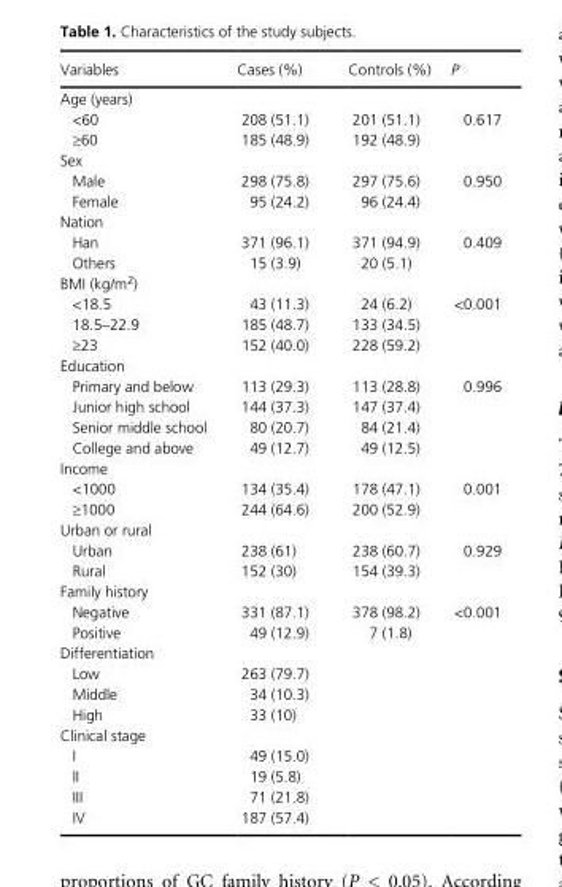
<table><thead><tr><td>Variables</td><td>Cases (%)</td><td>Controls (%)</td><td>P</td></tr></thead><tbody><tr><td colspan="4">Age (years)</td></tr><tr><td>&lt;60</td><td>208 (51.1)</td><td>201 (51.1)</td><td rowspan="2">0.617</td></tr><tr><td>≥60</td><td>185 (48.9)</td><td>192 (48.9)</td></tr><tr><td colspan="4">Sex</td></tr><tr><td>Male</td><td>298 (75.8)</td><td>297 (75.6)</td><td rowspan="2">0.950</td></tr><tr><td>Female</td><td>95 (24.2)</td><td>96 (24.4)</td></tr><tr><td colspan="4">Nation</td></tr><tr><td>Han</td><td>371 (96.1)</td><td>371 (94.9)</td><td rowspan="2">0.409</td></tr><tr><td>Others</td><td>15 (3.9)</td><td>20 (5.1)</td></tr><tr><td colspan="4">BMI (kg/m<sup>2</sup>)</td></tr><tr><td>&lt;18.5</td><td>43 (11.3)</td><td>24 (6.2)</td><td rowspan="3">&lt;0.001</td></tr><tr><td>18.5–22.9</td><td>185 (48.7)</td><td>133 (34.5)</td></tr><tr><td>≥23</td><td>152 (40.0)</td><td>228 (59.2)</td></tr><tr><td colspan="4">Education</td></tr><tr><td>Primary and below</td><td>113 (29.3)</td><td>113 (28.8)</td><td rowspan="4">0.996</td></tr><tr><td>Junior high school</td><td>144 (37.3)</td><td>147 (37.4)</td></tr><tr><td>Senior middle school</td><td>80 (20.7)</td><td>84 (21.4)</td></tr><tr><td>College and above</td><td>49 (12.7)</td><td>49 (12.5)</td></tr><tr><td colspan="4">Income</td></tr><tr><td>&lt;1000</td><td>134 (35.4)</td><td>178 (47.1)</td><td rowspan="2">0.001</td></tr><tr><td>≥1000</td><td>244 (64.6)</td><td>200 (52.9)</td></tr><tr><td colspan="4">Urban or rural</td></tr><tr><td>Urban</td><td>238 (61)</td><td>238 (60.7)</td><td rowspan="2">0.929</td></tr><tr><td>Rural</td><td>152 (30)</td><td>154 (39.3)</td></tr><tr><td colspan="4">Family history</td></tr><tr><td>Negative</td><td>331 (87.1)</td><td>378 (98.2)</td><td rowspan="2">&lt;0.001</td></tr><tr><td>Positive</td><td>49 (12.9)</td><td>7 (1.8)</td></tr><tr><td colspan="4">Differentiation</td></tr><tr><td>Low</td><td>263 (79.7)</td><td></td><td></td></tr><tr><td>Middle</td><td>34 (10.3)</td><td></td><td></td></tr><tr><td>High</td><td>33 (10)</td><td></td><td></td></tr><tr><td colspan="4">Clinical stage</td></tr><tr><td>I</td><td>49 (15.0)</td><td></td><td></td></tr><tr><td>II</td><td>19 (5.8)</td><td></td><td></td></tr><tr><td>III</td><td>71 (21.8)</td><td></td><td></td></tr><tr><td>IV</td><td>187 (57.4)</td><td></td><td></td></tr></tbody></table>